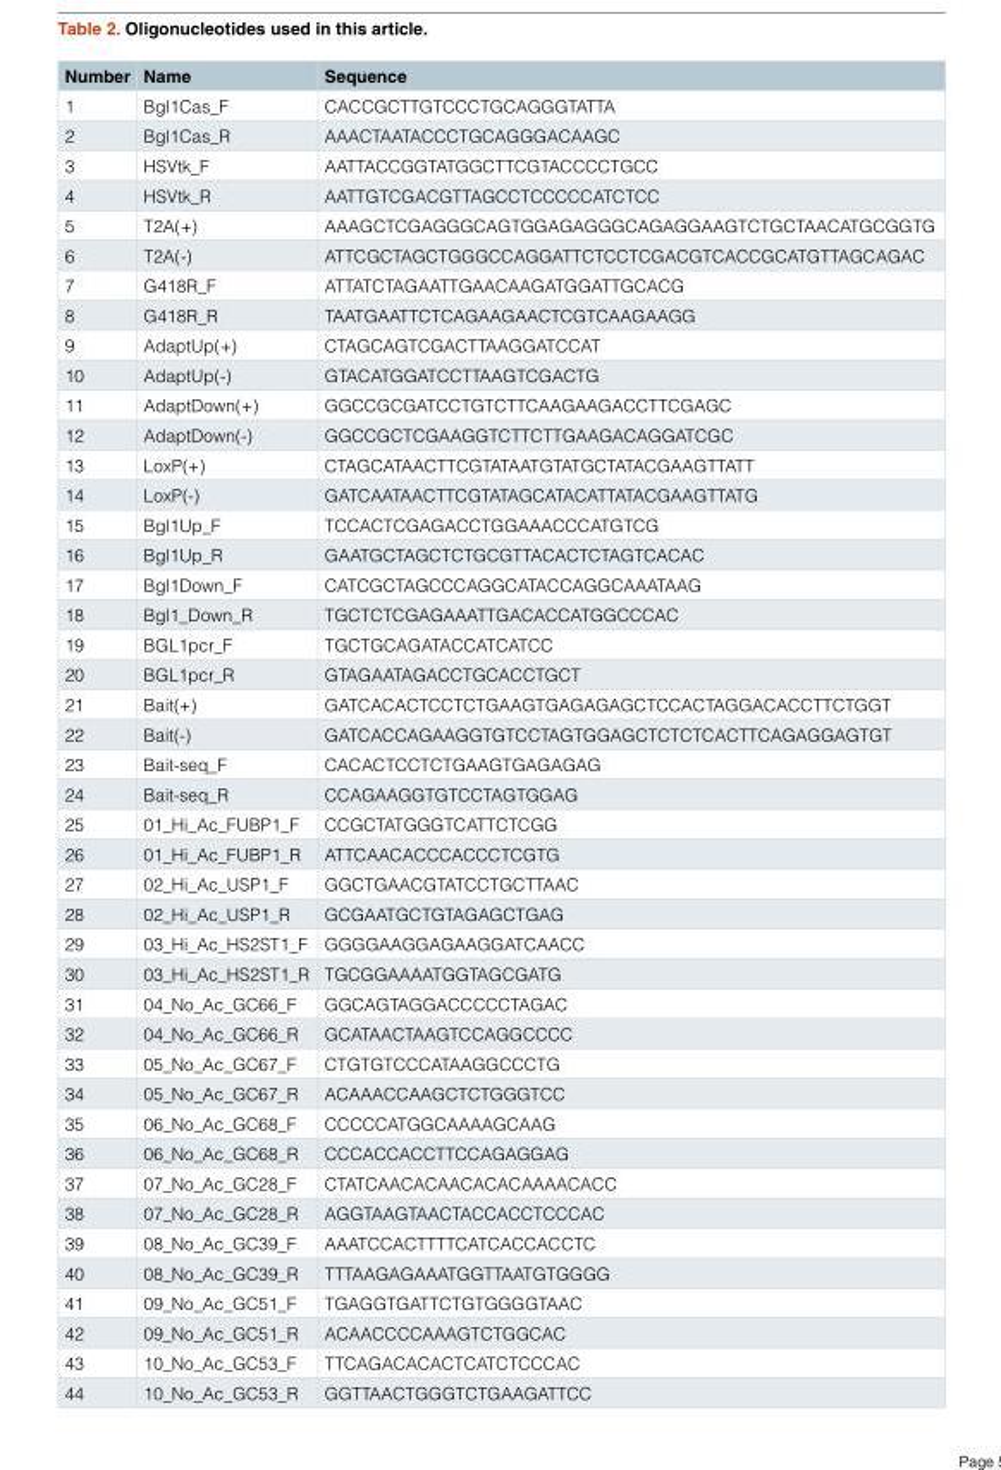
<table><thead><tr><td>Number</td><td>Name</td><td>Sequence</td></tr></thead><tbody><tr><td>1</td><td>Bgl1Cas_F</td><td>CACCGCTTGTCCCTGCAGGGTATTA</td></tr><tr><td>2</td><td>Bgl1Cas_R</td><td>AAACTAATACCCTGCAGGGACAAGC</td></tr><tr><td>3</td><td>HSVtk_F</td><td>AATTACCGGTATGGCTTCGTACCCCTGCC</td></tr><tr><td>4</td><td>HSVtk_R</td><td>AATTGTCGACGTTAGCCTCCCCCATCTCC</td></tr><tr><td>5</td><td>T2A(+)</td><td>AAAGCTCGAGGGCAGTGGAGAGGGCAGAGGAAGTCTGCTAACATGCGGTG</td></tr><tr><td>6</td><td>T2A(-)</td><td>ATTCGCTAGCTGGGCCAGGATTCTCCTCGACGTCACCGCATGTTAGCAGAC</td></tr><tr><td>7</td><td>G418R_F</td><td>ATTATCTAGAATTGAACAAGATGGATTGCACG</td></tr><tr><td>8</td><td>G418R_R</td><td>TAATGAATTCTCAGAAGAACTCGTCAAGAAGG</td></tr><tr><td>9</td><td>AdaptUp(+)</td><td>CTAGCAGTCGACTTAAGGATCCAT</td></tr><tr><td>10</td><td>AdaptUp(-)</td><td>GTACATGGATCCTTAAGTCGACTG</td></tr><tr><td>11</td><td>AdaptDown(+)</td><td>GGCCGCGATCCTGTCTTCAAGAAGACCTTCGAGC</td></tr><tr><td>12</td><td>AdaptDown(-)</td><td>GGCCGCTCGAAGGTCTTCTTGAAGACAGGATCGC</td></tr><tr><td>13</td><td>LoxP(+)</td><td>CTAGCATAACTTCGTATAATGTATGCTATACGAAGTTATT</td></tr><tr><td>14</td><td>LoxP(-)</td><td>GATCAATAACTTCGTATAGCATACATTATACGAAGTTATG</td></tr><tr><td>15</td><td>Bgl1Up_F</td><td>TCCACTCGAGACCTGGAAACCCATGTCG</td></tr><tr><td>16</td><td>Bgl1Up_R</td><td>GAATGCTAGCTCTGCGTTACACTCTAGTCACAC</td></tr><tr><td>17</td><td>Bgl1Down_F</td><td>CATCGCTAGCCCAGGCATACCAGGCAAATAAG</td></tr><tr><td>18</td><td>Bgl1_Down_R</td><td>TGCTCTCGAGAAATTGACACCATGGCCCAC</td></tr><tr><td>19</td><td>BGL1pcr_F</td><td>TGCTGCAGATACCATCATCC</td></tr><tr><td>20</td><td>BGL1pcr_R</td><td>GTAGAATAGACCTGCACCTGCT</td></tr><tr><td>21</td><td>Bait(+)</td><td>GATCACACTCCTCTGAAGTGAGAGAGCTCCACTAGGACACCTTCTGGT</td></tr><tr><td>22</td><td>Bait(-)</td><td>GATCACCAGAAGGTGTCCTAGTGGAGCTCTCTCACTTCAGAGGAGTGT</td></tr><tr><td>23</td><td>Bait-seq_F</td><td>CACACTCCTCTGAAGTGAGAGAG</td></tr><tr><td>24</td><td>Bait-seq_R</td><td>CCAGAAGGTGTCCTAGTGGAG</td></tr><tr><td>25</td><td>01_Hi_Ac_FUBP1_F</td><td>CCGCTATGGGTCATTCTCGG</td></tr><tr><td>26</td><td>01_Hi_Ac_FUBP1_R</td><td>ATTCAACACCCACCCTCGTG</td></tr><tr><td>27</td><td>02_Hi_Ac_USP1_F</td><td>GGCTGAACGTATCCTGCTTAAC</td></tr><tr><td>28</td><td>02_Hi_Ac_USP1_R</td><td>GCGAATGCTGTAGAGCTGAG</td></tr><tr><td>29</td><td>03_Hi_Ac_HS2ST1_F</td><td>GGGGAAGGAGAAGGATCAACC</td></tr><tr><td>30</td><td>03_Hi_Ac_HS2ST1_R</td><td>TGCGGAAAATGGTAGCGATG</td></tr><tr><td>31</td><td>04_No_Ac_GC66_F</td><td>GGCAGTAGGACCCCCTAGAC</td></tr><tr><td>32</td><td>04_No_Ac_GC66_R</td><td>GCATAACTAAGTCCAGGCCCC</td></tr><tr><td>33</td><td>05_No_Ac_GC67_F</td><td>CTGTGTCCCATAAGGCCCTG</td></tr><tr><td>34</td><td>05_No_Ac_GC67_R</td><td>ACAAACCAAGCTCTGGGTCC</td></tr><tr><td>35</td><td>06_No_Ac_GC68_F</td><td>CCCCCATGGCAAAAGCAAG</td></tr><tr><td>36</td><td>06_No_Ac_GC68_R</td><td>CCCACCACCTTCCAGAGGAG</td></tr><tr><td>37</td><td>07_No_Ac_GC28_F</td><td>CTATCAACACAACACACAAAACACC</td></tr><tr><td>38</td><td>07_No_Ac_GC28_R</td><td>AGGTAAGTAACTACCACCTCCCAC</td></tr><tr><td>39</td><td>08_No_Ac_GC39_F</td><td>AAATCCACTTTTCATCACCACCTC</td></tr><tr><td>40</td><td>08_No_Ac_GC39_R</td><td>TTTAAGAGAAATGGTTAATGTGGGG</td></tr><tr><td>41</td><td>09_No_Ac_GC51_F</td><td>TGAGGTGATTCTGTGGGGTAAC</td></tr><tr><td>42</td><td>09_No_Ac_GC51_R</td><td>ACAACCCCAAAGTCTGGCAC</td></tr><tr><td>43</td><td>10_No_Ac_GC53_F</td><td>TTCAGACACACTCATCTCCCAC</td></tr><tr><td>44</td><td>10_No_Ac_GC53_R</td><td>GGTTAACTGGGTCTGAAGATTCC</td></tr></tbody></table>